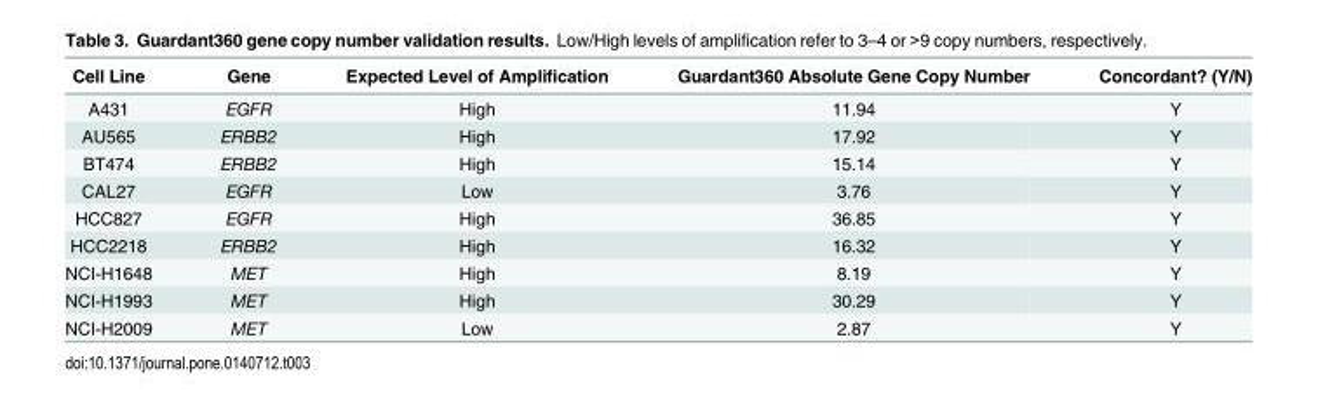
<table><thead><tr><td>Cell Line</td><td>Gene</td><td>Expected Level of Amplification</td><td>Guardant360 Absolute Gene Copy Number</td><td>Concordant? (Y/N)</td></tr></thead><tbody><tr><td>A431</td><td>EGFR</td><td>High</td><td>11.94</td><td>Y</td></tr><tr><td>AU565</td><td>ERBB2</td><td>High</td><td>17.92</td><td>Y</td></tr><tr><td>BT474</td><td>ERBB2</td><td>High</td><td>15.14</td><td>Y</td></tr><tr><td>CAL27</td><td>EGFR</td><td>Low</td><td>3.76</td><td>Y</td></tr><tr><td>HCC827</td><td>EGFR</td><td>High</td><td>36.85</td><td>Y</td></tr><tr><td>HCC2218</td><td>ERBB2</td><td>High</td><td>16.32</td><td>Y</td></tr><tr><td>NCI-H1648</td><td>MET</td><td>High</td><td>8.19</td><td>Y</td></tr><tr><td>NCI-H1993</td><td>MET</td><td>High</td><td>30.29</td><td>Y</td></tr><tr><td>NCI-H2009</td><td>MET</td><td>Low</td><td>2.87</td><td>Y</td></tr></tbody></table>